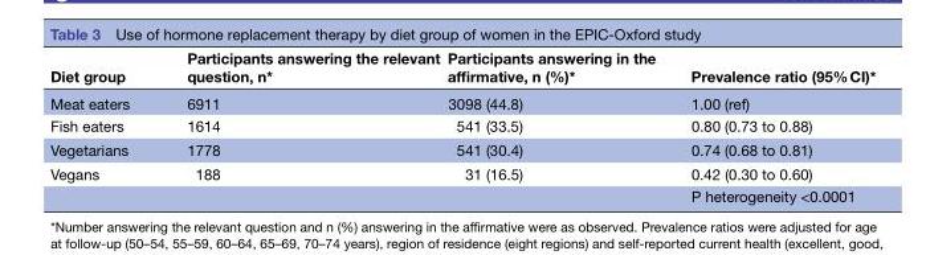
<table><thead><tr><td>Diet group</td><td>Participants answering the relevant question, n*</td><td>Participants answering in the affirmative, n (%)*</td><td>Prevalence ratio (95% CI)*</td></tr></thead><tbody><tr><td>Meat eaters</td><td>6911</td><td>3098 (44.8)</td><td>1.00 (ref)</td></tr><tr><td>Fish eaters</td><td>1614</td><td>541 (33.5)</td><td>0.80 (0.73 to 0.88)</td></tr><tr><td>Vegetarians</td><td>1778</td><td>541 (30.4)</td><td>0.74 (0.68 to 0.81)</td></tr><tr><td rowspan="2">Vegans</td><td>188</td><td>31 (16.5)</td><td>0.42 (0.30 to 0.60)</td></tr><tr><td></td><td></td><td>P heterogeneity &lt;0.0001</td></tr></tbody></table>